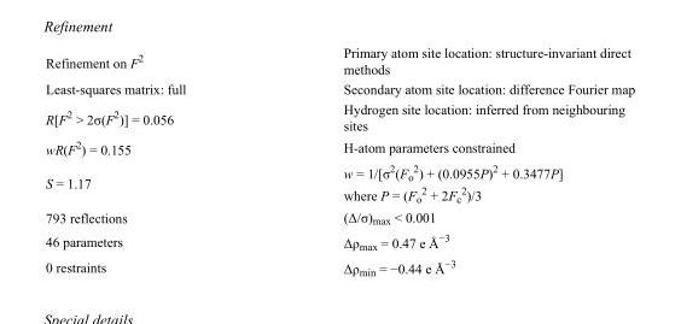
<table><tbody><tr><td>Refinement on F<sup>2</sup></td><td>Primary atom site location: structure-invariant direct methods</td></tr><tr><td>Least-squares matrix: full</td><td>Secondary atom site location: difference Fourier map</td></tr><tr><td>R[F<sup>2</sup> &gt; 2σ(F<sup>2</sup>)] = 0.056</td><td>Hydrogen site location: inferred from neighbouring sites</td></tr><tr><td>wR(F<sup>2</sup>) = 0.155</td><td>H-atom parameters constrained</td></tr><tr><td>S = 1.17</td><td>w = 1/[σ<sup>2</sup>(F<sub>o</sub> <sup>2</sup>) + (0.0955P)<sup>2</sup> + 0.3477P] where P = (F<sub>o</sub> <sup>2</sup> + 2F<sub>c</sub> <sup>2</sup>)/3</td></tr><tr><td>793 reflections</td><td>(Δ/σ)<sub>max</sub> &lt; 0.001</td></tr><tr><td>46 parameters</td><td>Δρ<sub>max</sub> = 0.47 e Å<sup>−3</sup></td></tr><tr><td>0 restraints</td><td>Δρ<sub>min</sub> = −0.44 e Å<sup>−3</sup></td></tr></tbody></table>